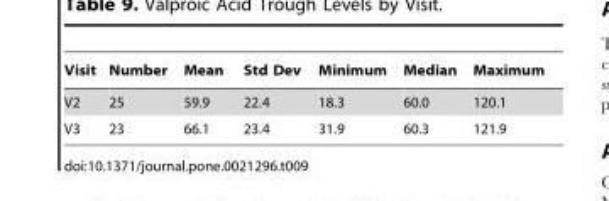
<table><thead><tr><td>Visit</td><td>Number</td><td>Mean</td><td>Std Dev</td><td>Minimum</td><td>Median</td><td>Maximum</td></tr></thead><tbody><tr><td>V2</td><td>25</td><td>59.9</td><td>22.4</td><td>18.3</td><td>60.0</td><td>120.1</td></tr><tr><td>V3</td><td>23</td><td>66.1</td><td>23.4</td><td>31.9</td><td>60.3</td><td>121.9</td></tr></tbody></table>